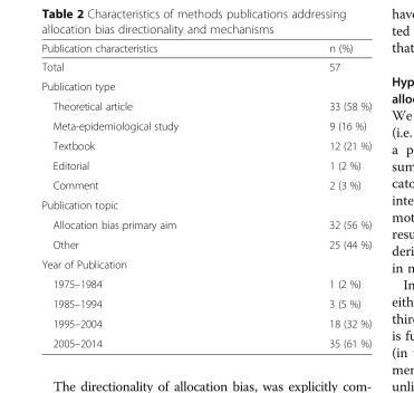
<table><thead><tr><td>Publication characteristics</td><td>n (%)</td></tr></thead><tbody><tr><td>Total</td><td>57</td></tr><tr><td colspan="2">Publication type</td></tr><tr><td>Theoretical article</td><td>33 (58 %)</td></tr><tr><td>Meta-epidemiological study</td><td>9 (16 %)</td></tr><tr><td>Textbook</td><td>12 (21 %)</td></tr><tr><td>Editorial</td><td>1 (2 %)</td></tr><tr><td>Comment</td><td>2 (3 %)</td></tr><tr><td colspan="2">Publication topic</td></tr><tr><td>Allocation bias primary aim</td><td>32 (56 %)</td></tr><tr><td>Other</td><td>25 (44 %)</td></tr><tr><td colspan="2">Year of Publication</td></tr><tr><td>1975–1984</td><td>1 (2 %)</td></tr><tr><td>1985–1994</td><td>3 (5 %)</td></tr><tr><td>1995–2004</td><td>18 (32 %)</td></tr><tr><td>2005–2014</td><td>35 (61 %)</td></tr></tbody></table>